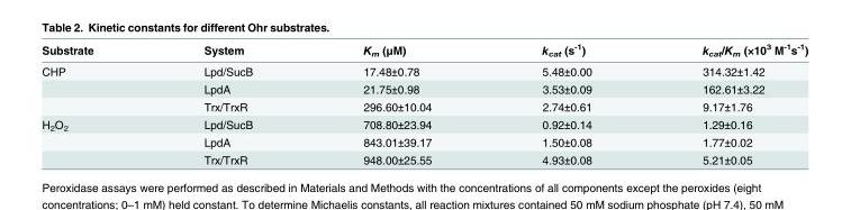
<table><thead><tr><td>Substrate</td><td>System</td><td>K<sub>m</sub> (μM)</td><td>k<sub>cat</sub> (s<sup>-1</sup>)</td><td>k<sub>cat</sub>/K<sub>m</sub> (×10<sup>3</sup> M<sup>-1</sup>s<sup>-1</sup>)</td></tr></thead><tbody><tr><td rowspan="3">CHP</td><td>Lpd/SucB</td><td>17.48±0.78</td><td>5.48±0.00</td><td>314.32±1.42</td></tr><tr><td>LpdA</td><td>21.75±0.98</td><td>3.53±0.09</td><td>162.61±3.22</td></tr><tr><td>Trx/TrxR</td><td>296.60±10.04</td><td>2.74±0.61</td><td>9.17±1.76</td></tr><tr><td rowspan="3">H<sub>2</sub>O<sub>2</sub></td><td>Lpd/SucB</td><td>708.80±23.94</td><td>0.92±0.14</td><td>1.29±0.16</td></tr><tr><td>LpdA</td><td>843.01±39.17</td><td>1.50±0.08</td><td>1.77±0.02</td></tr><tr><td>Trx/TrxR</td><td>948.00±25.55</td><td>4.93±0.08</td><td>5.21±0.05</td></tr></tbody></table>